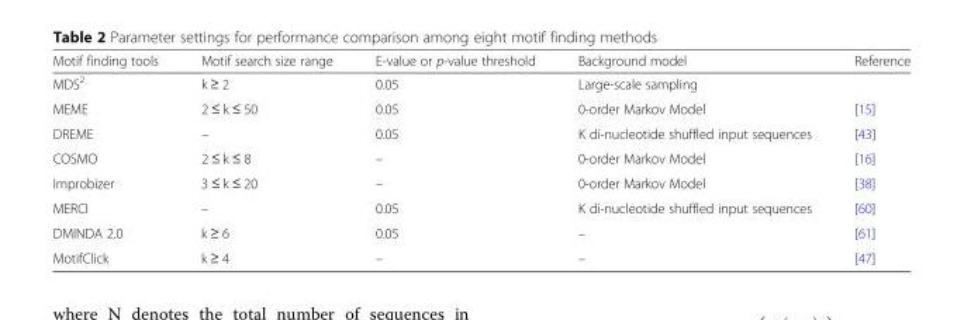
<table><thead><tr><td>Motif finding tools</td><td>Motif search size range</td><td>E-value or p-value threshold</td><td>Background model</td><td>Reference</td></tr></thead><tbody><tr><td>MDS<sup>2</sup></td><td>k ≥ 2</td><td>0.05</td><td>Large-scale sampling</td><td></td></tr><tr><td>MEME</td><td>2 ≤ k ≤ 50</td><td>0.05</td><td>0-order Markov Model</td><td>[15]</td></tr><tr><td>DREME</td><td>–</td><td>0.05</td><td>K di-nucleotide shuffled input sequences</td><td>[43]</td></tr><tr><td>COSMO</td><td>2 ≤ k ≤ 8</td><td>–</td><td>0-order Markov Model</td><td>[16]</td></tr><tr><td>Improbizer</td><td>3 ≤ k ≤ 20</td><td>–</td><td>0-order Markov Model</td><td>[38]</td></tr><tr><td>MERCI</td><td>–</td><td>0.05</td><td>K di-nucleotide shuffled input sequences</td><td>[60]</td></tr><tr><td>DMINDA 2.0</td><td>k ≥ 6</td><td>0.05</td><td>–</td><td>[61]</td></tr><tr><td>MotifClick</td><td>k ≥ 4</td><td>–</td><td>–</td><td>[47]</td></tr></tbody></table>